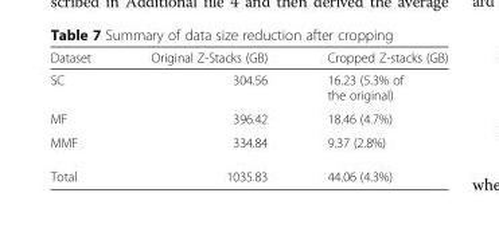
<table><thead><tr><td>Dataset</td><td>Original Z-Stacks (GB)</td><td>Cropped Z-stacks (GB)</td></tr></thead><tbody><tr><td>SC</td><td>304.56</td><td>16.23 (5.3% of the original)</td></tr><tr><td>MF</td><td>396.42</td><td>18.46 (4.7%)</td></tr><tr><td>MMF</td><td>334.84</td><td>9.37 (2.8%)</td></tr><tr><td>Total</td><td>1035.83</td><td>44.06 (4.3%)</td></tr></tbody></table>